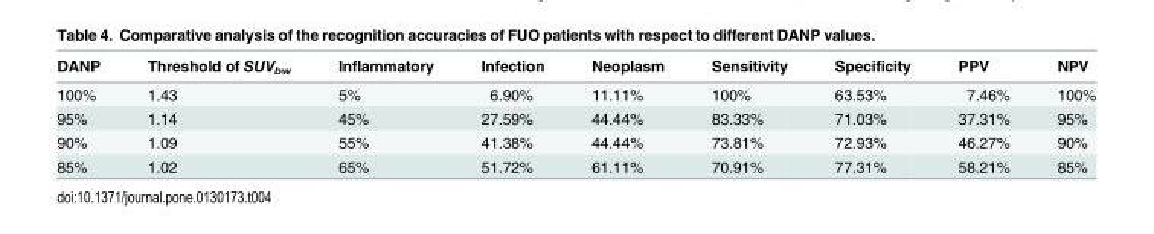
<table><thead><tr><td>DANP</td><td>Threshold of SUV<sub>bw</sub></td><td>Inflammatory</td><td>Infection</td><td>Neoplasm</td><td>Sensitivity</td><td>Specificity</td><td>PPV</td><td>NPV</td></tr></thead><tbody><tr><td>100%</td><td>1.43</td><td>5%</td><td>6.90%</td><td>11.11%</td><td>100%</td><td>63.53%</td><td>7.46%</td><td>100%</td></tr><tr><td>95%</td><td>1.14</td><td>45%</td><td>27.59%</td><td>44.44%</td><td>83.33%</td><td>71.03%</td><td>37.31%</td><td>95%</td></tr><tr><td>90%</td><td>1.09</td><td>55%</td><td>41.38%</td><td>44.44%</td><td>73.81%</td><td>72.93%</td><td>46.27%</td><td>90%</td></tr><tr><td>85%</td><td>1.02</td><td>65%</td><td>51.72%</td><td>61.11%</td><td>70.91%</td><td>77.31%</td><td>58.21%</td><td>85%</td></tr></tbody></table>